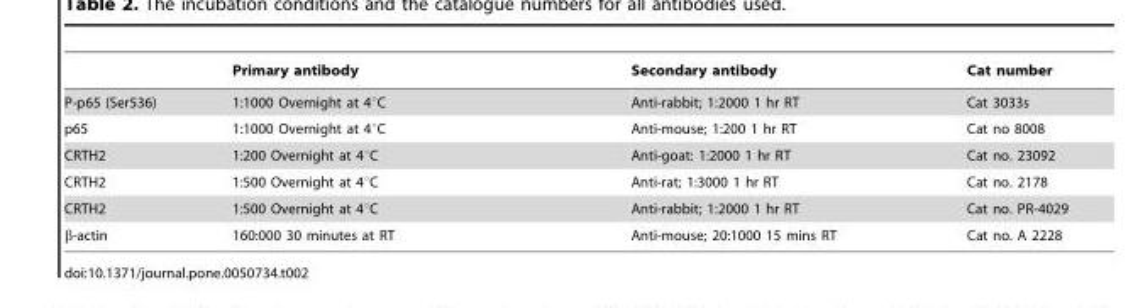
<table><thead><tr><td></td><td>Primary antibody</td><td>Secondary antibody</td><td>Cat number</td></tr></thead><tbody><tr><td>P-p65 (Ser536)</td><td>1:1000 Overnight at 4°C</td><td>Anti-rabbit; 1:2000 1 hr RT</td><td>Cat 3033s</td></tr><tr><td>p65</td><td>1:1000 Overnight at 4°C</td><td>Anti-mouse; 1:200 1 hr RT</td><td>Cat no 8008</td></tr><tr><td>CRTH2</td><td>1:200 Overnight at 4°C</td><td>Anti-goat: 1:2000 1 hr RT</td><td>Cat no. 23092</td></tr><tr><td>CRTH2</td><td>1:500 Overnight at 4°C</td><td>Anti-rat; 1:3000 1 hr RT</td><td>Cat no. 2178</td></tr><tr><td>CRTH2</td><td>1:500 Overnight at 4°C</td><td>Anti-rabbit; 1:2000 1 hr RT</td><td>Cat no. PR-4029</td></tr><tr><td>β-actin</td><td>160:000 30 minutes at RT</td><td>Anti-mouse; 20:1000 15 mins RT</td><td>Cat no. A 2228</td></tr></tbody></table>